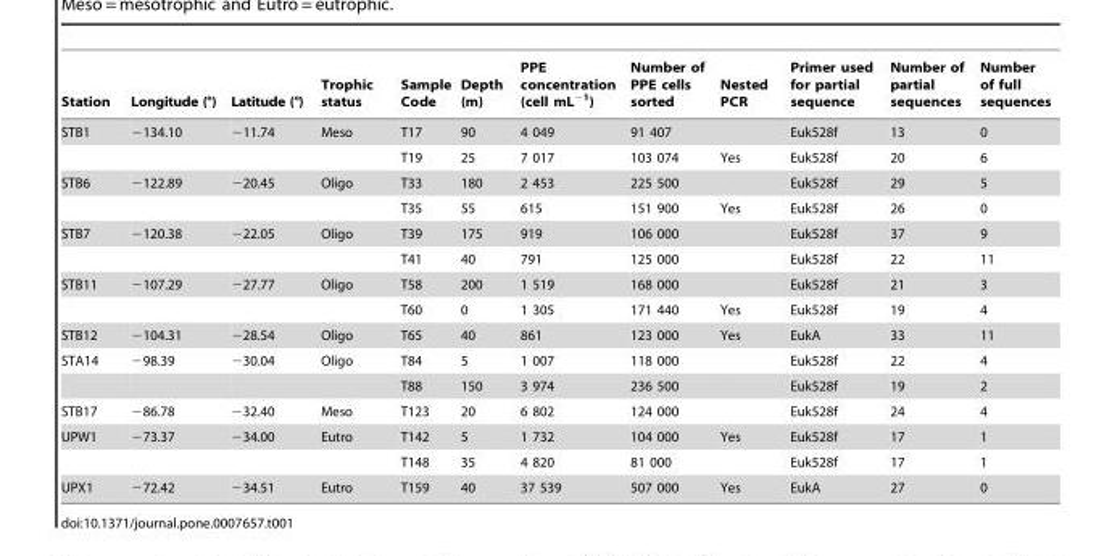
<table><thead><tr><td>Station</td><td>Longitude (°)</td><td>Latitude (°)</td><td>Trophic status</td><td>Sample Code</td><td>Depth (m)</td><td>PPE concentration (cell mL<sup>−1</sup>)</td><td>Number of PPE cells sorted</td><td>Nested PCR</td><td>Primer used for partial sequence</td><td>Number of partial sequences</td><td>Number of full sequences</td></tr></thead><tbody><tr><td rowspan="2">STB1</td><td>−134.10</td><td>−11.74</td><td>Meso</td><td>T17</td><td>90</td><td>4 049</td><td>91 407</td><td></td><td>Euk528f</td><td>13</td><td>0</td></tr><tr><td></td><td></td><td></td><td>T19</td><td>25</td><td>7 017</td><td>103 074</td><td>Yes</td><td>Euk528f</td><td>20</td><td>6</td></tr><tr><td rowspan="2">STB6</td><td>−122.89</td><td>−20.45</td><td>Oligo</td><td>T33</td><td>180</td><td>2 453</td><td>225 500</td><td></td><td>Euk528f</td><td>29</td><td>5</td></tr><tr><td></td><td></td><td></td><td>T35</td><td>55</td><td>615</td><td>151 900</td><td>Yes</td><td>Euk528f</td><td>26</td><td>0</td></tr><tr><td rowspan="2">STB7</td><td>−120.38</td><td>−22.05</td><td>Oligo</td><td>T39</td><td>175</td><td>919</td><td>106 000</td><td></td><td>Euk528f</td><td>37</td><td>9</td></tr><tr><td></td><td></td><td></td><td>T41</td><td>40</td><td>791</td><td>125 000</td><td></td><td>Euk528f</td><td>22</td><td>11</td></tr><tr><td rowspan="2">STB11</td><td>−107.29</td><td>−27.77</td><td>Oligo</td><td>T58</td><td>200</td><td>1 519</td><td>168 000</td><td></td><td>Euk528f</td><td>21</td><td>3</td></tr><tr><td></td><td></td><td></td><td>T60</td><td>0</td><td>1 305</td><td>171 440</td><td>Yes</td><td>Euk528f</td><td>19</td><td>4</td></tr><tr><td>STB12</td><td>−104.31</td><td>−28.54</td><td>Oligo</td><td>T65</td><td>40</td><td>861</td><td>123 000</td><td>Yes</td><td>EukA</td><td>33</td><td>11</td></tr><tr><td rowspan="2">STA14</td><td>−98.39</td><td>−30.04</td><td>Oligo</td><td>T84</td><td>5</td><td>1 007</td><td>118 000</td><td></td><td>Euk528f</td><td>22</td><td>4</td></tr><tr><td></td><td></td><td></td><td>T88</td><td>150</td><td>3 974</td><td>236 500</td><td></td><td>Euk528f</td><td>19</td><td>2</td></tr><tr><td>STB17</td><td>−86.78</td><td>−32.40</td><td>Meso</td><td>T123</td><td>20</td><td>6 802</td><td>124 000</td><td></td><td>Euk528f</td><td>24</td><td>4</td></tr><tr><td rowspan="2">UPW1</td><td>−73.37</td><td>−34.00</td><td>Eutro</td><td>T142</td><td>5</td><td>1 732</td><td>104 000</td><td>Yes</td><td>Euk528f</td><td>17</td><td>1</td></tr><tr><td></td><td></td><td></td><td>T148</td><td>35</td><td>4 820</td><td>81 000</td><td></td><td>Euk528f</td><td>17</td><td>1</td></tr><tr><td>UPX1</td><td>−72.42</td><td>−34.51</td><td>Eutro</td><td>T159</td><td>40</td><td>37 539</td><td>507 000</td><td>Yes</td><td>EukA</td><td>27</td><td>0</td></tr></tbody></table>